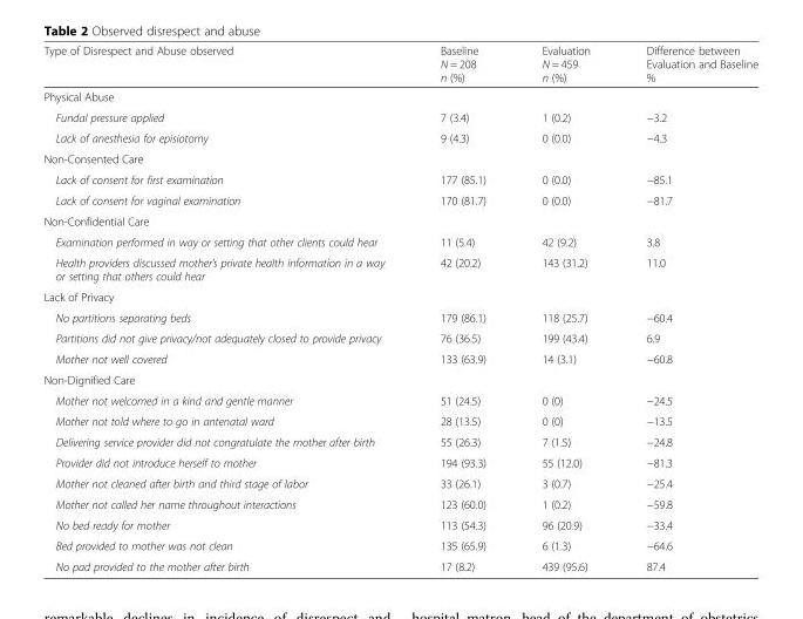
<table><thead><tr><td>Type of Disrespect and Abuse observed</td><td>Baseline N = 208 n (%)</td><td>Evaluation N = 459 n (%)</td><td>Difference between Evaluation and Baseline %</td></tr></thead><tbody><tr><td colspan="4">Physical Abuse</td></tr><tr><td>Fundal pressure applied</td><td>7 (3.4)</td><td>1 (0.2)</td><td>−3.2</td></tr><tr><td>Lack of anesthesia for episiotomy</td><td>9 (4.3)</td><td>0 (0.0)</td><td>−4.3</td></tr><tr><td colspan="4">Non-Consented Care</td></tr><tr><td>Lack of consent for first examination</td><td>177 (85.1)</td><td>0 (0.0)</td><td>−85.1</td></tr><tr><td>Lack of consent for vaginal examination</td><td>170 (81.7)</td><td>0 (0.0)</td><td>−81.7</td></tr><tr><td colspan="4">Non-Confidential Care</td></tr><tr><td>Examination performed in way or setting that other clients could hear</td><td>11 (5.4)</td><td>42 (9.2)</td><td>3.8</td></tr><tr><td>Health providers discussed mother’s private health information in a way or setting that others could hear</td><td>42 (20.2)</td><td>143 (31.2)</td><td>11.0</td></tr><tr><td colspan="4">Lack of Privacy</td></tr><tr><td>No partitions separating beds</td><td>179 (86.1)</td><td>118 (25.7)</td><td>−60.4</td></tr><tr><td>Partitions did not give privacy/not adequately closed to provide privacy</td><td>76 (36.5)</td><td>199 (43.4)</td><td>6.9</td></tr><tr><td>Mother not well covered</td><td>133 (63.9)</td><td>14 (3.1)</td><td>−60.8</td></tr><tr><td colspan="4">Non-Dignified Care</td></tr><tr><td>Mother not welcomed in a kind and gentle manner</td><td>51 (24.5)</td><td>0 (0)</td><td>−24.5</td></tr><tr><td>Mother not told where to go in antenatal ward</td><td>28 (13.5)</td><td>0 (0)</td><td>−13.5</td></tr><tr><td>Delivering service provider did not congratulate the mother after birth</td><td>55 (26.3)</td><td>7 (1.5)</td><td>−24.8</td></tr><tr><td>Provider did not introduce herself to mother</td><td>194 (93.3)</td><td>55 (12.0)</td><td>−81.3</td></tr><tr><td>Mother not cleaned after birth and third stage of labor</td><td>33 (26.1)</td><td>3 (0.7)</td><td>−25.4</td></tr><tr><td>Mother not called her name throughout interactions</td><td>123 (60.0)</td><td>1 (0.2)</td><td>−59.8</td></tr><tr><td>No bed ready for mother</td><td>113 (54.3)</td><td>96 (20.9)</td><td>−33.4</td></tr><tr><td>Bed provided to mother was not clean</td><td>135 (65.9)</td><td>6 (1.3)</td><td>−64.6</td></tr><tr><td>No pad provided to the mother after birth</td><td>17 (8.2)</td><td>439 (95.6)</td><td>87.4</td></tr></tbody></table>